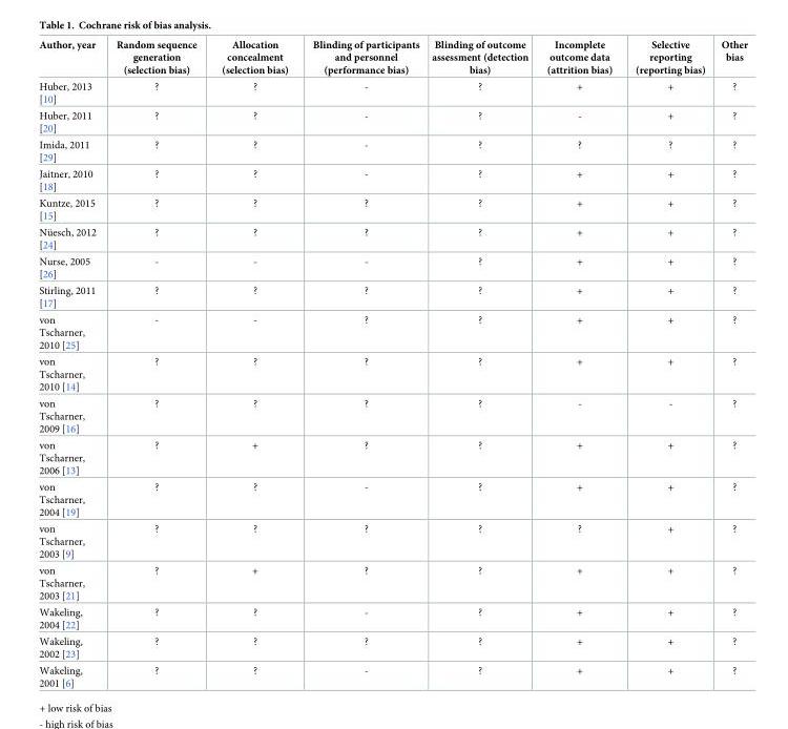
<table><thead><tr><td>Author, year</td><td>Random sequence generation (selection bias)</td><td>Allocation concealment (selection bias)</td><td>Blinding of participants and personnel (performance bias)</td><td>Blinding of outcome assessment (detection bias)</td><td>Incomplete outcome data (attrition bias)</td><td>Selective reporting (reporting bias)</td><td>Other bias</td></tr></thead><tbody><tr><td>Huber, 2013 [10]</td><td>?</td><td>?</td><td>-</td><td>?</td><td>+</td><td>+</td><td>?</td></tr><tr><td>Huber, 2011 [20]</td><td>?</td><td>?</td><td>-</td><td>?</td><td>-</td><td>+</td><td>?</td></tr><tr><td>Imida, 2011 [29]</td><td>?</td><td>?</td><td>-</td><td>?</td><td>?</td><td>?</td><td>?</td></tr><tr><td>Jaitner, 2010 [18]</td><td>?</td><td>?</td><td>-</td><td>?</td><td>+</td><td>+</td><td>?</td></tr><tr><td>Kuntze, 2015 [15]</td><td>?</td><td>?</td><td>?</td><td>?</td><td>+</td><td>+</td><td>?</td></tr><tr><td>Nu¨esch, 2012 [24]</td><td>?</td><td>?</td><td>?</td><td>?</td><td>+</td><td>+</td><td>?</td></tr><tr><td>Nurse, 2005 [26]</td><td>-</td><td>-</td><td>-</td><td>?</td><td>+</td><td>+</td><td>?</td></tr><tr><td>Stirling, 2011 [17]</td><td>?</td><td>?</td><td>?</td><td>?</td><td>+</td><td>+</td><td>?</td></tr><tr><td>von Tscharner, 2010 [25]</td><td>-</td><td>-</td><td>?</td><td>?</td><td>+</td><td>+</td><td>?</td></tr><tr><td>von Tscharner, 2010 [14]</td><td>?</td><td>?</td><td>?</td><td>?</td><td>+</td><td>+</td><td>?</td></tr><tr><td>von Tscharner, 2009 [16]</td><td>?</td><td>?</td><td>?</td><td>?</td><td>-</td><td>-</td><td>?</td></tr><tr><td>von Tscharner, 2006 [13]</td><td>?</td><td>+</td><td>?</td><td>?</td><td>+</td><td>+</td><td>?</td></tr><tr><td>von Tscharner, 2004 [19]</td><td>?</td><td>?</td><td>-</td><td>?</td><td>+</td><td>+</td><td>?</td></tr><tr><td>von Tscharner, 2003 [9]</td><td>?</td><td>?</td><td>?</td><td>?</td><td>?</td><td>+</td><td>?</td></tr><tr><td>von Tscharner, 2003 [21]</td><td>?</td><td>+</td><td>?</td><td>?</td><td>+</td><td>+</td><td>?</td></tr><tr><td>Wakeling, 2004 [22]</td><td>?</td><td>?</td><td>-</td><td>?</td><td>+</td><td>+</td><td>?</td></tr><tr><td>Wakeling, 2002 [23]</td><td>?</td><td>?</td><td>?</td><td>?</td><td>+</td><td>+</td><td>?</td></tr><tr><td>Wakeling, 2001 [6]</td><td>?</td><td>?</td><td>-</td><td>?</td><td>+</td><td>+</td><td>?</td></tr></tbody></table>